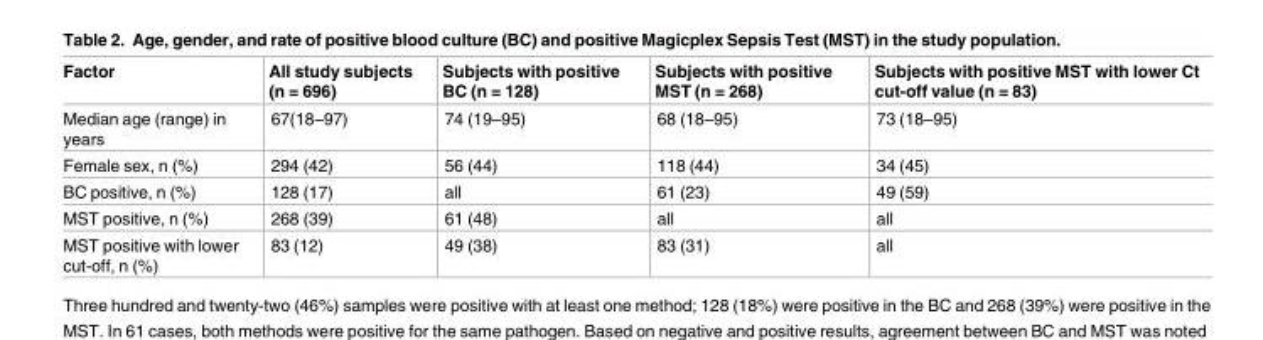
<table><thead><tr><td>Factor</td><td>All study subjects (n = 696)</td><td>Subjects with positive BC (n = 128)</td><td>Subjects with positive MST (n = 268)</td><td>Subjects with positive MST with lower Ct cut-off value (n = 83)</td></tr></thead><tbody><tr><td>Median age (range) in years</td><td>67(18–97)</td><td>74 (19–95)</td><td>68 (18–95)</td><td>73 (18–95)</td></tr><tr><td>Female sex, n (%)</td><td>294 (42)</td><td>56 (44)</td><td>118 (44)</td><td>34 (45)</td></tr><tr><td>BC positive, n (%)</td><td>128 (17)</td><td>all</td><td>61 (23)</td><td>49 (59)</td></tr><tr><td>MST positive, n (%)</td><td>268 (39)</td><td>61 (48)</td><td>all</td><td>all</td></tr><tr><td>MST positive with lower cut-off, n (%)</td><td>83 (12)</td><td>49 (38)</td><td>83 (31)</td><td>all</td></tr></tbody></table>